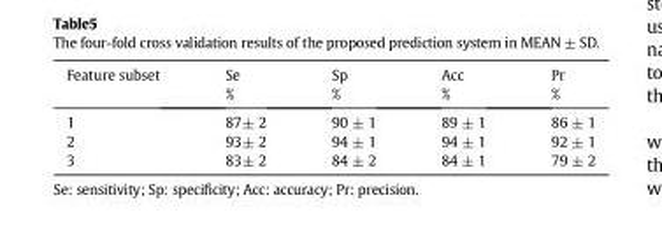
<table><thead><tr><td>Feature subset</td><td>Se %</td><td>Sp %</td><td>Acc %</td><td>Pr %</td></tr></thead><tbody><tr><td>1</td><td>87± 2</td><td>90 ± 1</td><td>89 ± 1</td><td>86 ± 1</td></tr><tr><td>2</td><td>93± 2</td><td>94 ± 1</td><td>94 ± 1</td><td>92 ± 1</td></tr><tr><td>3</td><td>83± 2</td><td>84 ± 2</td><td>84 ± 1</td><td>79 ± 2</td></tr></tbody></table>